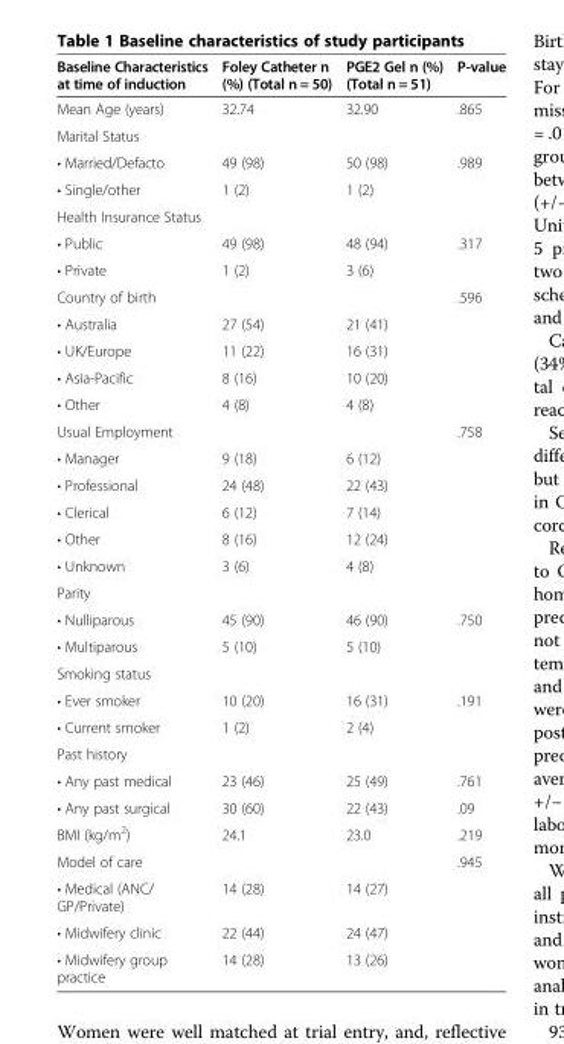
<table><thead><tr><td>Baseline Characteristics at time of induction</td><td>Foley Catheter n (%) (Total n = 50)</td><td>PGE2 Gel n (%) (Total n = 51)</td><td>P-value</td></tr></thead><tbody><tr><td>Mean Age (years)</td><td>32.74</td><td>32.90</td><td>.865</td></tr><tr><td colspan="4">Marital Status</td></tr><tr><td>• Married/Defacto</td><td>49 (98)</td><td>50 (98)</td><td rowspan="2">.989</td></tr><tr><td>• Single/other</td><td>1 (2)</td><td>1 (2)</td></tr><tr><td colspan="4">Health Insurance Status</td></tr><tr><td>• Public</td><td>49 (98)</td><td>48 (94)</td><td rowspan="2">.317</td></tr><tr><td>• Private</td><td>1 (2)</td><td>3 (6)</td></tr><tr><td colspan="3">Country of birth</td><td rowspan="5">.596</td></tr><tr><td>• Australia</td><td>27 (54)</td><td>21 (41)</td></tr><tr><td>• UK/Europe</td><td>11 (22)</td><td>16 (31)</td></tr><tr><td>• Asia-Pacific</td><td>8 (16)</td><td>10 (20)</td></tr><tr><td>• Other</td><td>4 (8)</td><td>4 (8)</td></tr><tr><td colspan="3">Usual Employment</td><td rowspan="6">.758</td></tr><tr><td>• Manager</td><td>9 (18)</td><td>6 (12)</td></tr><tr><td>• Professional</td><td>24 (48)</td><td>22 (43)</td></tr><tr><td>• Clerical</td><td>6 (12)</td><td>7 (14)</td></tr><tr><td>• Other</td><td>8 (16)</td><td>12 (24)</td></tr><tr><td>• Unknown</td><td>3 (6)</td><td>4 (8)</td></tr><tr><td colspan="4">Parity</td></tr><tr><td>• Nulliparous</td><td>45 (90)</td><td>46 (90)</td><td>.750</td></tr><tr><td>• Multiparous</td><td>5 (10)</td><td>5 (10)</td><td></td></tr><tr><td colspan="4">Smoking status</td></tr><tr><td>• Ever smoker</td><td>10 (20)</td><td>16 (31)</td><td rowspan="2">.191</td></tr><tr><td>• Current smoker</td><td>1 (2)</td><td>2 (4)</td></tr><tr><td colspan="4">Past history</td></tr><tr><td>• Any past medical</td><td>23 (46)</td><td>25 (49)</td><td>.761</td></tr><tr><td>• Any past surgical</td><td>30 (60)</td><td>22 (43)</td><td>.09</td></tr><tr><td>BMI (kg/m<sup>2</sup>)</td><td>24.1</td><td>23.0</td><td>.219</td></tr><tr><td colspan="3">Model of care</td><td rowspan="3">.945</td></tr><tr><td>• Medical (ANC/ GP/Private)</td><td>14 (28)</td><td>14 (27)</td></tr><tr><td>• Midwifery clinic</td><td>22 (44)</td><td>24 (47)</td></tr><tr><td>• Midwifery group practice</td><td>14 (28)</td><td>13 (26)</td><td></td></tr></tbody></table>